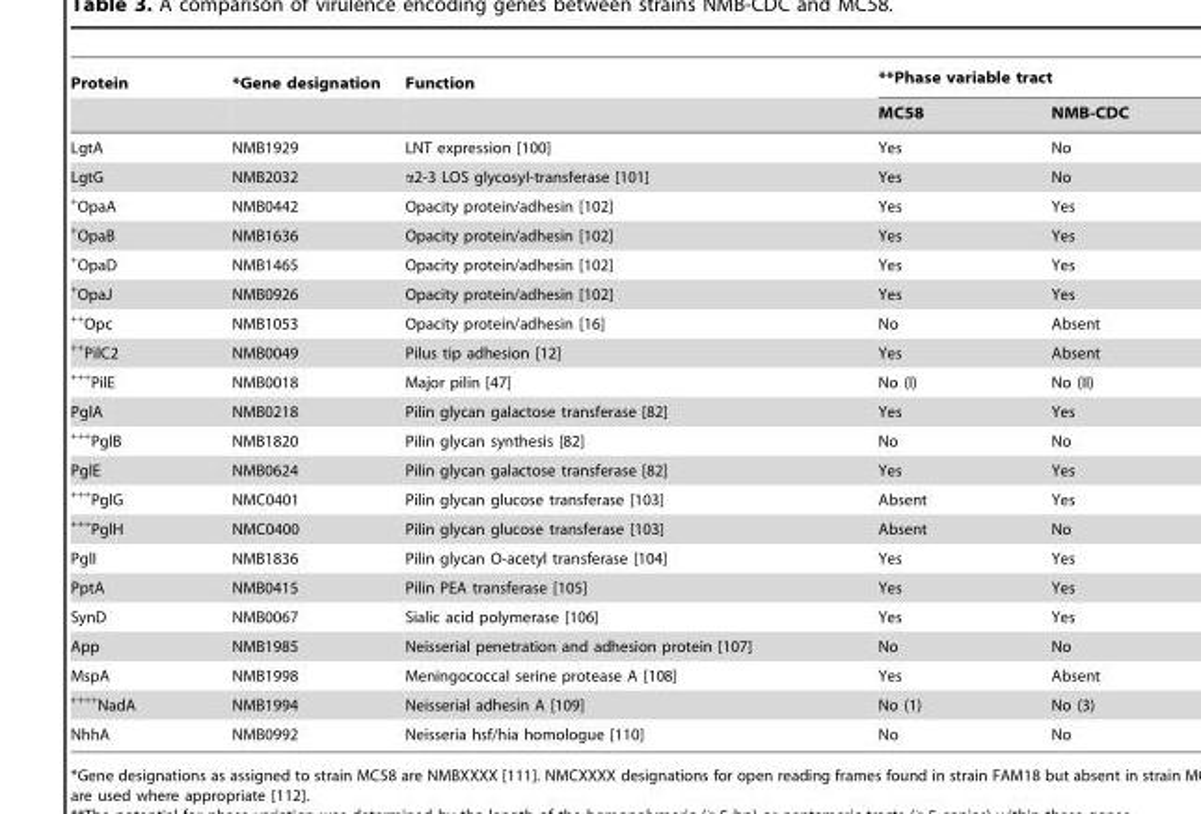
<table><thead><tr><td rowspan="2">Protein</td><td rowspan="2">*Gene designation</td><td rowspan="2">Function</td><td colspan="2">**Phase variable tract</td></tr><tr><td>MC58</td><td>NMB-CDC</td></tr></thead><tbody><tr><td>LgtA</td><td>NMB1929</td><td>LNT expression [100]</td><td>Yes</td><td>No</td></tr><tr><td>LgtG</td><td>NMB2032</td><td>α2-3 LOS glycosyl-transferase [101]</td><td>Yes</td><td>No</td></tr><tr><td>+OpaA</td><td>NMB0442</td><td>Opacity protein/adhesin [102]</td><td>Yes</td><td>Yes</td></tr><tr><td>+OpaB</td><td>NMB1636</td><td>Opacity protein/adhesin [102]</td><td>Yes</td><td>Yes</td></tr><tr><td>+OpaD</td><td>NMB1465</td><td>Opacity protein/adhesin [102]</td><td>Yes</td><td>Yes</td></tr><tr><td>+OpaJ</td><td>NMB0926</td><td>Opacity protein/adhesin [102]</td><td>Yes</td><td>Yes</td></tr><tr><td>++Opc</td><td>NMB1053</td><td>Opacity protein/adhesin [16]</td><td>No</td><td>Absent</td></tr><tr><td>++PilC2</td><td>NMB0049</td><td>Pilus tip adhesion [12]</td><td>Yes</td><td>Absent</td></tr><tr><td>+++PilE</td><td>NMB0018</td><td>Major pilin [47]</td><td>No (I)</td><td>No (II)</td></tr><tr><td>PglA</td><td>NMB0218</td><td>Pilin glycan galactose transferase [82]</td><td>Yes</td><td>Yes</td></tr><tr><td>+++PglB</td><td>NMB1820</td><td>Pilin glycan synthesis [82]</td><td>No</td><td>No</td></tr><tr><td>PglE</td><td>NMB0624</td><td>Pilin glycan galactose transferase [82]</td><td>Yes</td><td>Yes</td></tr><tr><td>+++PglG</td><td>NMC0401</td><td>Pilin glycan glucose transferase [103]</td><td>Absent</td><td>Yes</td></tr><tr><td>+++PglH</td><td>NMC0400</td><td>Pilin glycan glucose transferase [103]</td><td>Absent</td><td>No</td></tr><tr><td>PglI</td><td>NMB1836</td><td>Pilin glycan O-acetyl transferase [104]</td><td>Yes</td><td>Yes</td></tr><tr><td>PptA</td><td>NMB0415</td><td>Pilin PEA transferase [105]</td><td>Yes</td><td>Yes</td></tr><tr><td>SynD</td><td>NMB0067</td><td>Sialic acid polymerase [106]</td><td>Yes</td><td>Yes</td></tr><tr><td>App</td><td>NMB1985</td><td>Neisserial penetration and adhesion protein [107]</td><td>No</td><td>No</td></tr><tr><td>MspA</td><td>NMB1998</td><td>Meningococcal serine protease A [108]</td><td>Yes</td><td>Absent</td></tr><tr><td>++++NadA</td><td>NMB1994</td><td>Neisserial adhesin A [109]</td><td>No (1)</td><td>No (3)</td></tr><tr><td>NhhA</td><td>NMB0992</td><td>Neisseria hsf/hia homologue [110]</td><td>No</td><td>No</td></tr></tbody></table>